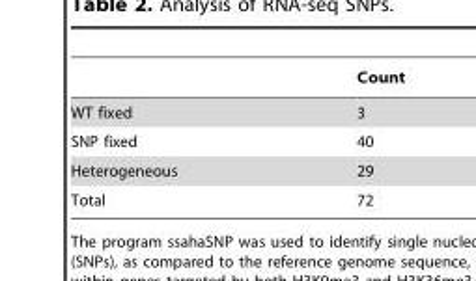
<table><thead><tr><td></td><td>Count</td></tr></thead><tbody><tr><td>WT fixed</td><td>3</td></tr><tr><td>SNP fixed</td><td>40</td></tr><tr><td>Heterogeneous</td><td>29</td></tr><tr><td>Total</td><td>72</td></tr></tbody></table>